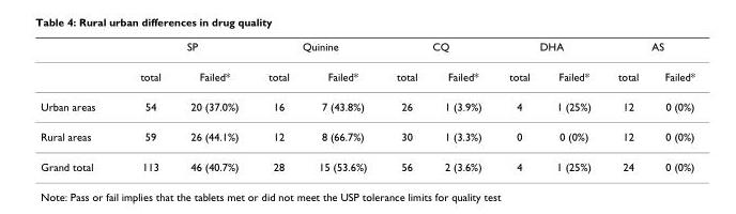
<table><thead><tr><td rowspan="2"></td><td colspan="2">SP</td><td colspan="2">Quinine</td><td colspan="2">CQ</td><td colspan="2">DHA</td><td colspan="2">AS</td></tr><tr><td>total</td><td>Failed*</td><td>total</td><td>Failed*</td><td>total</td><td>Failed*</td><td>total</td><td>Failed*</td><td>total</td><td>Failed*</td></tr></thead><tbody><tr><td>Urban areas</td><td>54</td><td>20 (37.0%)</td><td>16</td><td>7 (43.8%)</td><td>26</td><td>1 (3.9%)</td><td>4</td><td>1 (25%)</td><td>12</td><td>0 (0%)</td></tr><tr><td>Rural areas</td><td>59</td><td>26 (44.1%)</td><td>12</td><td>8 (66.7%)</td><td>30</td><td>1 (3.3%)</td><td>0</td><td>0 (0%)</td><td>12</td><td>0 (0%)</td></tr><tr><td>Grand total</td><td>113</td><td>46 (40.7%)</td><td>28</td><td>15 (53.6%)</td><td>56</td><td>2 (3.6%)</td><td>4</td><td>1 (25%)</td><td>24</td><td>0 (0%)</td></tr></tbody></table>